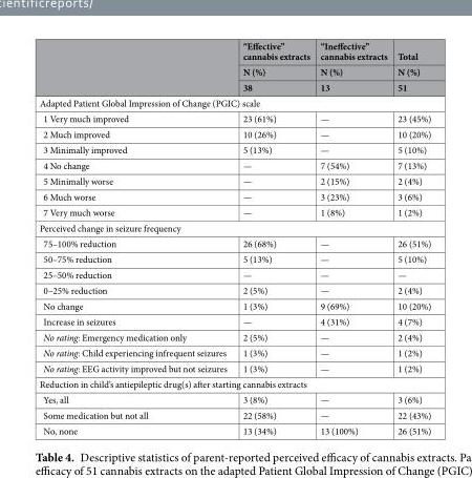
<table><thead><tr><td rowspan="3"></td><td rowspan="3">“Effective” cannabis extracts N (%) 38</td><td rowspan="3">“Ineffective” cannabis extracts N (%) 13</td><td rowspan="3">Total N (%) 51</td></tr><tr></tr><tr></tr></thead><tbody><tr><td colspan="4">Adapted Patient Global Impression of Change (PGIC) scale</td></tr><tr><td>1 Very much improved</td><td>23 (61%)</td><td>—</td><td>23 (45%)</td></tr><tr><td>2 Much improved</td><td>10 (26%)</td><td>—</td><td>10 (20%)</td></tr><tr><td>3 Minimally improved</td><td>5 (13%)</td><td>—</td><td>5 (10%)</td></tr><tr><td>4 No change</td><td>—</td><td>7 (54%)</td><td>7 (13%)</td></tr><tr><td>5 Minimally worse</td><td>—</td><td>2 (15%)</td><td>2 (4%)</td></tr><tr><td>6 Much worse</td><td>—</td><td>3 (23%)</td><td>3 (6%)</td></tr><tr><td>7 Very much worse</td><td>—</td><td>1 (8%)</td><td>1 (2%)</td></tr><tr><td colspan="4">Perceived change in seizure frequency</td></tr><tr><td>75–100% reduction</td><td>26 (68%)</td><td>—</td><td>26 (51%)</td></tr><tr><td>50–75% reduction</td><td>5 (13%)</td><td>—</td><td>5 (10%)</td></tr><tr><td>25–50% reduction</td><td>—</td><td>—</td><td>—</td></tr><tr><td>0–25% reduction</td><td>2 (5%)</td><td>—</td><td>2 (4%)</td></tr><tr><td>No change</td><td>1 (3%)</td><td>9 (69%)</td><td>10 (20%)</td></tr><tr><td>Increase in seizures</td><td>—</td><td>4 (31%)</td><td>4 (7%)</td></tr><tr><td>No rating: Emergency medication only</td><td>2 (5%)</td><td>—</td><td>2 (4%)</td></tr><tr><td>No rating: Child experiencing infrequent seizures</td><td>1 (3%)</td><td>—</td><td>1 (2%)</td></tr><tr><td>No rating: EEG activity improved but not seizures</td><td>1 (3%)</td><td>—</td><td>1 (2%)</td></tr><tr><td colspan="4">Reduction in child’s antiepileptic drug(s) after starting cannabis extracts</td></tr><tr><td>Yes, all</td><td>3 (8%)</td><td>—</td><td>3 (6%)</td></tr><tr><td>Some medication but not all</td><td>22 (58%)</td><td>—</td><td>22 (43%)</td></tr><tr><td>No, none</td><td>13 (34%)</td><td>13 (100%)</td><td>26 (51%)</td></tr></tbody></table>